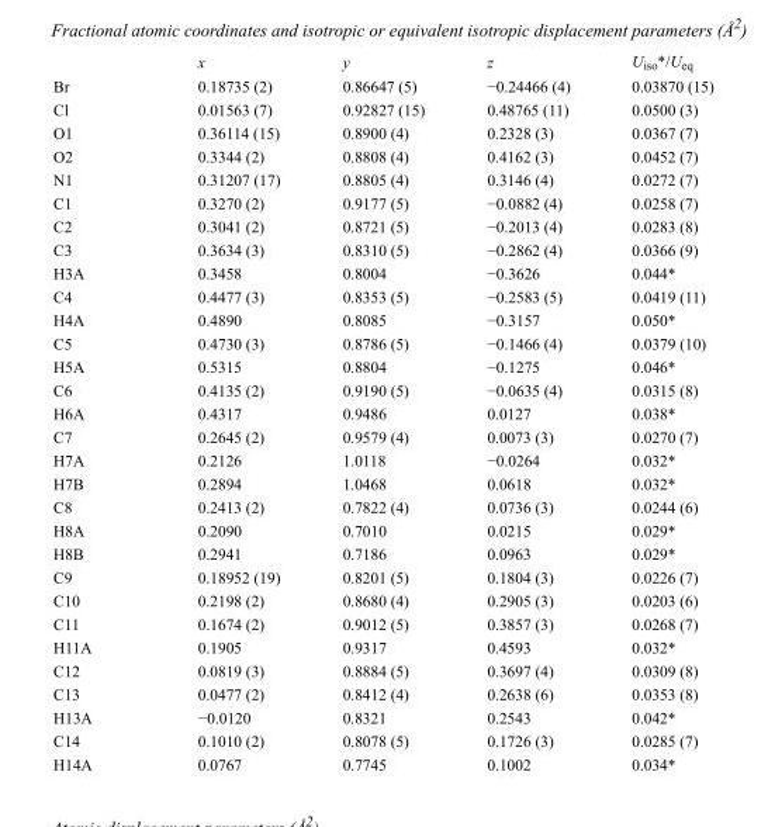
<table><thead><tr><td></td><td>x</td><td>y</td><td>z</td><td>U<sub>iso</sub>*/U<sub>eq</sub></td></tr></thead><tbody><tr><td>Br</td><td>0.18735 (2)</td><td>0.86647 (5)</td><td>−0.24466 (4)</td><td>0.03870 (15)</td></tr><tr><td>Cl</td><td>0.01563 (7)</td><td>0.92827 (15)</td><td>0.48765 (11)</td><td>0.0500 (3)</td></tr><tr><td>O1</td><td>0.36114 (15)</td><td>0.8900 (4)</td><td>0.2328 (3)</td><td>0.0367 (7)</td></tr><tr><td>O2</td><td>0.3344 (2)</td><td>0.8808 (4)</td><td>0.4162 (3)</td><td>0.0452 (7)</td></tr><tr><td>N1</td><td>0.31207 (17)</td><td>0.8805 (4)</td><td>0.3146 (4)</td><td>0.0272 (7)</td></tr><tr><td>C1</td><td>0.3270 (2)</td><td>0.9177 (5)</td><td>−0.0882 (4)</td><td>0.0258 (7)</td></tr><tr><td>C2</td><td>0.3041 (2)</td><td>0.8721 (5)</td><td>−0.2013 (4)</td><td>0.0283 (8)</td></tr><tr><td>C3</td><td>0.3634 (3)</td><td>0.8310 (5)</td><td>−0.2862 (4)</td><td>0.0366 (9)</td></tr><tr><td>H3A</td><td>0.3458</td><td>0.8004</td><td>−0.3626</td><td>0.044*</td></tr><tr><td>C4</td><td>0.4477 (3)</td><td>0.8353 (5)</td><td>−0.2583 (5)</td><td>0.0419 (11)</td></tr><tr><td>H4A</td><td>0.4890</td><td>0.8085</td><td>−0.3157</td><td>0.050*</td></tr><tr><td>C5</td><td>0.4730 (3)</td><td>0.8786 (5)</td><td>−0.1466 (4)</td><td>0.0379 (10)</td></tr><tr><td>H5A</td><td>0.5315</td><td>0.8804</td><td>−0.1275</td><td>0.046*</td></tr><tr><td>C6</td><td>0.4135 (2)</td><td>0.9190 (5)</td><td>−0.0635 (4)</td><td>0.0315 (8)</td></tr><tr><td>H6A</td><td>0.4317</td><td>0.9486</td><td>0.0127</td><td>0.038*</td></tr><tr><td>C7</td><td>0.2645 (2)</td><td>0.9579 (4)</td><td>0.0073 (3)</td><td>0.0270 (7)</td></tr><tr><td>H7A</td><td>0.2126</td><td>1.0118</td><td>−0.0264</td><td>0.032*</td></tr><tr><td>H7B</td><td>0.2894</td><td>1.0468</td><td>0.0618</td><td>0.032*</td></tr><tr><td>C8</td><td>0.2413 (2)</td><td>0.7822 (4)</td><td>0.0736 (3)</td><td>0.0244 (6)</td></tr><tr><td>H8A</td><td>0.2090</td><td>0.7010</td><td>0.0215</td><td>0.029*</td></tr><tr><td>H8B</td><td>0.2941</td><td>0.7186</td><td>0.0963</td><td>0.029*</td></tr><tr><td>C9</td><td>0.18952 (19)</td><td>0.8201 (5)</td><td>0.1804 (3)</td><td>0.0226 (7)</td></tr><tr><td>C10</td><td>0.2198 (2)</td><td>0.8680 (4)</td><td>0.2905 (3)</td><td>0.0203 (6)</td></tr><tr><td>C11</td><td>0.1674 (2)</td><td>0.9012 (5)</td><td>0.3857 (3)</td><td>0.0268 (7)</td></tr><tr><td>H11A</td><td>0.1905</td><td>0.9317</td><td>0.4593</td><td>0.032*</td></tr><tr><td>C12</td><td>0.0819 (3)</td><td>0.8884 (5)</td><td>0.3697 (4)</td><td>0.0309 (8)</td></tr><tr><td>C13</td><td>0.0477 (2)</td><td>0.8412 (4)</td><td>0.2638 (6)</td><td>0.0353 (8)</td></tr><tr><td>H13A</td><td>−0.0120</td><td>0.8321</td><td>0.2543</td><td>0.042*</td></tr><tr><td>C14</td><td>0.1010 (2)</td><td>0.8078 (5)</td><td>0.1726 (3)</td><td>0.0285 (7)</td></tr><tr><td>H14A</td><td>0.0767</td><td>0.7745</td><td>0.1002</td><td>0.034*</td></tr></tbody></table>